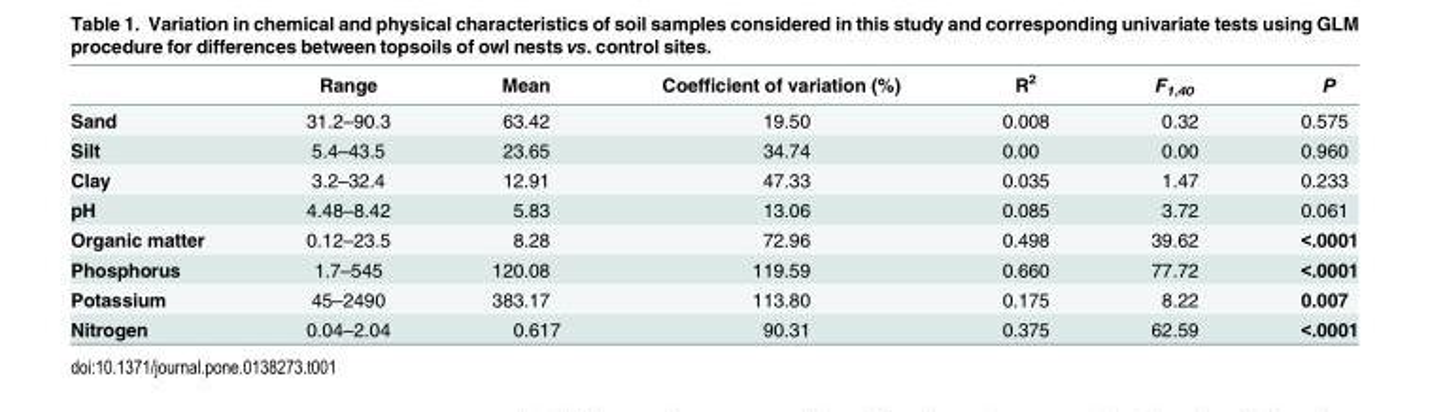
<table><thead><tr><td></td><td>Range</td><td>Mean</td><td>Coefficient of variation (%)</td><td>R<sup>2</sup></td><td>F<sub>1,40</sub></td><td>P</td></tr></thead><tbody><tr><td>Sand</td><td>31.2–90.3</td><td>63.42</td><td>19.50</td><td>0.008</td><td>0.32</td><td>0.575</td></tr><tr><td>Silt</td><td>5.4–43.5</td><td>23.65</td><td>34.74</td><td>0.00</td><td>0.00</td><td>0.960</td></tr><tr><td>Clay</td><td>3.2–32.4</td><td>12.91</td><td>47.33</td><td>0.035</td><td>1.47</td><td>0.233</td></tr><tr><td>pH</td><td>4.48–8.42</td><td>5.83</td><td>13.06</td><td>0.085</td><td>3.72</td><td>0.061</td></tr><tr><td>Organic matter</td><td>0.12–23.5</td><td>8.28</td><td>72.96</td><td>0.498</td><td>39.62</td><td>&lt;.0001</td></tr><tr><td>Phosphorus</td><td>1.7–545</td><td>120.08</td><td>119.59</td><td>0.660</td><td>77.72</td><td>&lt;.0001</td></tr><tr><td>Potassium</td><td>45–2490</td><td>383.17</td><td>113.80</td><td>0.175</td><td>8.22</td><td>0.007</td></tr><tr><td>Nitrogen</td><td>0.04–2.04</td><td>0.617</td><td>90.31</td><td>0.375</td><td>62.59</td><td>&lt;.0001</td></tr></tbody></table>